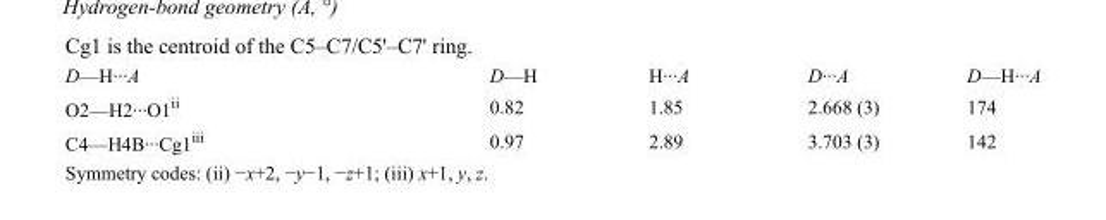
<table><tbody><tr><td>D—H···A</td><td>D—H</td><td>H···A</td><td>D···A</td><td>D—H···A</td></tr><tr><td>O2—H2···O1<sup>ii</sup></td><td>0.82</td><td>1.85</td><td>2.668 (3)</td><td>174</td></tr><tr><td>C4—H4B···Cg1<sup>iii</sup></td><td>0.97</td><td>2.89</td><td>3.703 (3)</td><td>142</td></tr></tbody></table>